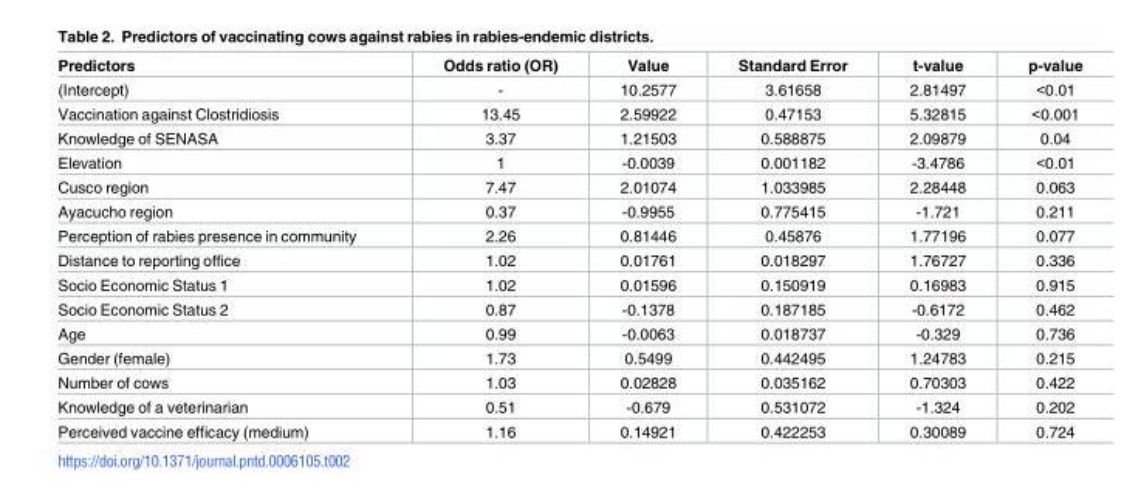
<table><thead><tr><td>Predictors</td><td>Odds ratio (OR)</td><td>Value</td><td>Standard Error</td><td>t-value</td><td>p-value</td></tr></thead><tbody><tr><td>(Intercept)</td><td>-</td><td>10.2577</td><td>3.61658</td><td>2.81497</td><td>&lt;0.01</td></tr><tr><td>Vaccination against Clostridiosis</td><td>13.45</td><td>2.59922</td><td>0.47153</td><td>5.32815</td><td>&lt;0.001</td></tr><tr><td>Knowledge of SENASA</td><td>3.37</td><td>1.21503</td><td>0.588875</td><td>2.09879</td><td>0.04</td></tr><tr><td>Elevation</td><td>1</td><td>-0.0039</td><td>0.001182</td><td>-3.4786</td><td>&lt;0.01</td></tr><tr><td>Cusco region</td><td>7.47</td><td>2.01074</td><td>1.033985</td><td>2.28448</td><td>0.063</td></tr><tr><td>Ayacucho region</td><td>0.37</td><td>-0.9955</td><td>0.775415</td><td>-1.721</td><td>0.211</td></tr><tr><td>Perception of rabies presence in community</td><td>2.26</td><td>0.81446</td><td>0.45876</td><td>1.77196</td><td>0.077</td></tr><tr><td>Distance to reporting office</td><td>1.02</td><td>0.01761</td><td>0.018297</td><td>1.76727</td><td>0.336</td></tr><tr><td>Socio Economic Status 1</td><td>1.02</td><td>0.01596</td><td>0.150919</td><td>0.16983</td><td>0.915</td></tr><tr><td>Socio Economic Status 2</td><td>0.87</td><td>-0.1378</td><td>0.187185</td><td>-0.6172</td><td>0.462</td></tr><tr><td>Age</td><td>0.99</td><td>-0.0063</td><td>0.018737</td><td>-0.329</td><td>0.736</td></tr><tr><td>Gender (female)</td><td>1.73</td><td>0.5499</td><td>0.442495</td><td>1.24783</td><td>0.215</td></tr><tr><td>Number of cows</td><td>1.03</td><td>0.02828</td><td>0.035162</td><td>0.70303</td><td>0.422</td></tr><tr><td>Knowledge of a veterinarian</td><td>0.51</td><td>-0.679</td><td>0.531072</td><td>-1.324</td><td>0.202</td></tr><tr><td>Perceived vaccine efficacy (medium)</td><td>1.16</td><td>0.14921</td><td>0.422253</td><td>0.30089</td><td>0.724</td></tr></tbody></table>